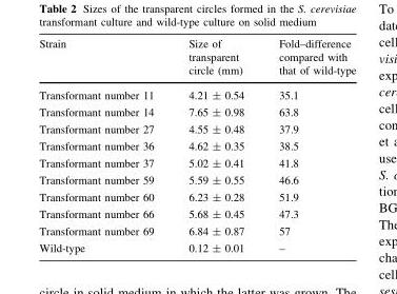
<table><thead><tr><td>Strain</td><td>Size of transparent circle (mm)</td><td>Fold–difference compared with that of wild-type</td></tr></thead><tbody><tr><td>Transformant number 11</td><td>4.21 ± 0.54</td><td>35.1</td></tr><tr><td>Transformant number 14</td><td>7.65 ± 0.98</td><td>63.8</td></tr><tr><td>Transformant number 27</td><td>4.55 ± 0.48</td><td>37.9</td></tr><tr><td>Transformant number 36</td><td>4.62 ± 0.35</td><td>38.5</td></tr><tr><td>Transformant number 37</td><td>5.02 ± 0.41</td><td>41.8</td></tr><tr><td>Transformant number 59</td><td>5.59 ± 0.55</td><td>46.6</td></tr><tr><td>Transformant number 60</td><td>6.23 ± 0.28</td><td>51.9</td></tr><tr><td>Transformant number 66</td><td>5.68 ± 0.45</td><td>47.3</td></tr><tr><td>Transformant number 69</td><td>6.84 ± 0.87</td><td>57</td></tr><tr><td>Wild-type</td><td>0.12 ± 0.01</td><td>–</td></tr></tbody></table>